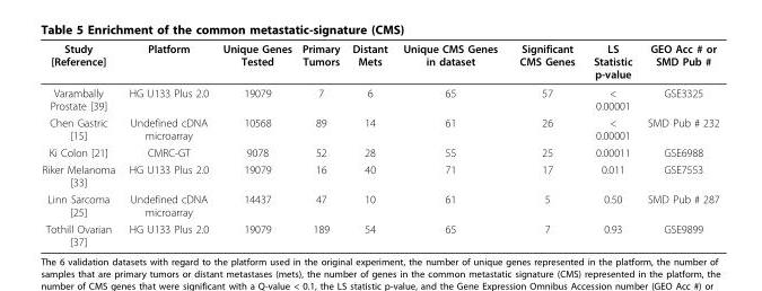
<table><thead><tr><td>Study [Reference]</td><td>Platform</td><td>Unique Genes Tested</td><td>Primary Tumors</td><td>Distant Mets</td><td>Unique CMS Genes in dataset</td><td>Significant CMS Genes</td><td>LS Statistic p-value</td><td>GEO Acc # or SMD Pub #</td></tr></thead><tbody><tr><td>Varambally Prostate [39]</td><td>HG U133 Plus 2.0</td><td>19079</td><td>7</td><td>6</td><td>65</td><td>57</td><td>&lt; 0.00001</td><td>GSE3325</td></tr><tr><td>Chen Gastric [15]</td><td>Undefined cDNA microarray</td><td>10568</td><td>89</td><td>14</td><td>61</td><td>26</td><td>&lt; 0.00001</td><td>SMD Pub # 232</td></tr><tr><td>Ki Colon [21]</td><td>CMRC-GT</td><td>9078</td><td>52</td><td>28</td><td>55</td><td>25</td><td>0.00011</td><td>GSE6988</td></tr><tr><td>Riker Melanoma [33]</td><td>HG U133 Plus 2.0</td><td>19079</td><td>16</td><td>40</td><td>71</td><td>17</td><td>0.011</td><td>GSE7553</td></tr><tr><td>Linn Sarcoma [25]</td><td>Undefined cDNA microarray</td><td>14437</td><td>47</td><td>10</td><td>61</td><td>5</td><td>0.50</td><td>SMD Pub # 287</td></tr><tr><td>Tothill Ovarian [37]</td><td>HG U133 Plus 2.0</td><td>19079</td><td>189</td><td>54</td><td>65</td><td>7</td><td>0.93</td><td>GSE9899</td></tr></tbody></table>